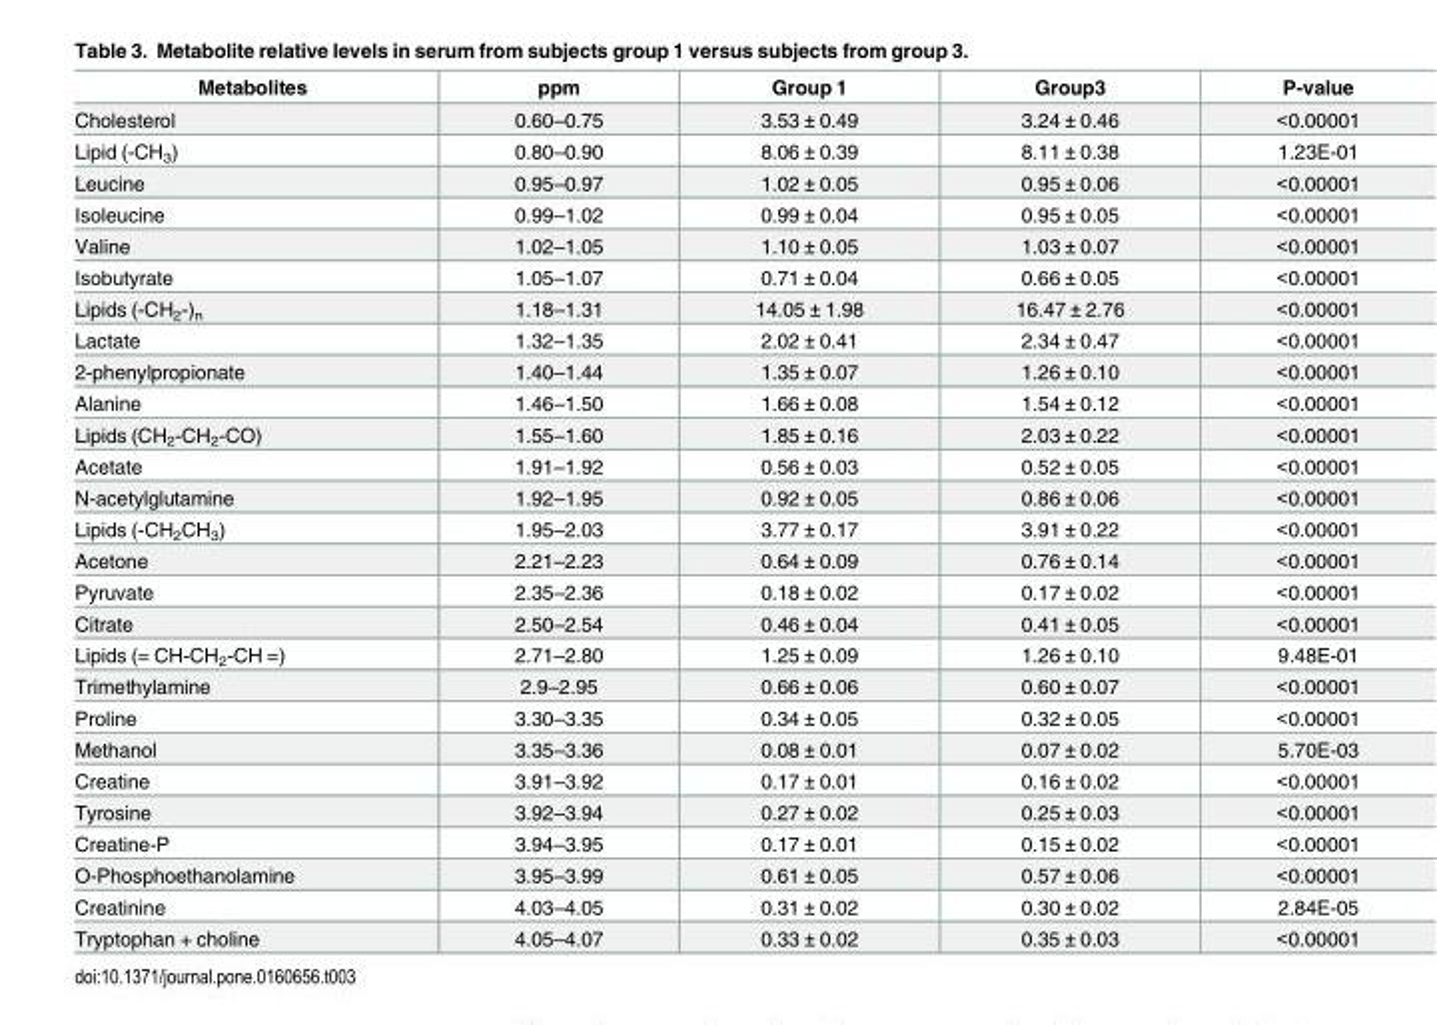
<table><thead><tr><td>Metabolites</td><td>ppm</td><td>Group 1</td><td>Group3</td><td>P-value</td></tr></thead><tbody><tr><td>Cholesterol</td><td>0.60–0.75</td><td>3.53 ± 0.49</td><td>3.24 ± 0.46</td><td>&lt;0.00001</td></tr><tr><td>Lipid (-CH<sub>3</sub>)</td><td>0.80–0.90</td><td>8.06 ± 0.39</td><td>8.11 ± 0.38</td><td>1.23E-01</td></tr><tr><td>Leucine</td><td>0.95–0.97</td><td>1.02 ± 0.05</td><td>0.95 ± 0.06</td><td>&lt;0.00001</td></tr><tr><td>Isoleucine</td><td>0.99–1.02</td><td>0.99 ± 0.04</td><td>0.95 ± 0.05</td><td>&lt;0.00001</td></tr><tr><td>Valine</td><td>1.02–1.05</td><td>1.10 ± 0.05</td><td>1.03 ± 0.07</td><td>&lt;0.00001</td></tr><tr><td>Isobutyrate</td><td>1.05–1.07</td><td>0.71 ± 0.04</td><td>0.66 ± 0.05</td><td>&lt;0.00001</td></tr><tr><td>Lipids (-CH<sub>2</sub>-)<sub>n</sub></td><td>1.18–1.31</td><td>14.05 ± 1.98</td><td>16.47 ± 2.76</td><td>&lt;0.00001</td></tr><tr><td>Lactate</td><td>1.32–1.35</td><td>2.02 ± 0.41</td><td>2.34 ± 0.47</td><td>&lt;0.00001</td></tr><tr><td>2-phenylpropionate</td><td>1.40–1.44</td><td>1.35 ± 0.07</td><td>1.26 ± 0.10</td><td>&lt;0.00001</td></tr><tr><td>Alanine</td><td>1.46–1.50</td><td>1.66 ± 0.08</td><td>1.54 ± 0.12</td><td>&lt;0.00001</td></tr><tr><td>Lipids (CH<sub>2</sub>-CH<sub>2</sub>-CO)</td><td>1.55–1.60</td><td>1.85 ± 0.16</td><td>2.03 ± 0.22</td><td>&lt;0.00001</td></tr><tr><td>Acetate</td><td>1.91–1.92</td><td>0.56 ± 0.03</td><td>0.52 ± 0.05</td><td>&lt;0.00001</td></tr><tr><td>N-acetylglutamine</td><td>1.92–1.95</td><td>0.92 ± 0.05</td><td>0.86 ± 0.06</td><td>&lt;0.00001</td></tr><tr><td>Lipids (-CH<sub>2</sub>CH<sub>3</sub>)</td><td>1.95–2.03</td><td>3.77 ± 0.17</td><td>3.91 ± 0.22</td><td>&lt;0.00001</td></tr><tr><td>Acetone</td><td>2.21–2.23</td><td>0.64 ± 0.09</td><td>0.76 ± 0.14</td><td>&lt;0.00001</td></tr><tr><td>Pyruvate</td><td>2.35–2.36</td><td>0.18 ± 0.02</td><td>0.17 ± 0.02</td><td>&lt;0.00001</td></tr><tr><td>Citrate</td><td>2.50–2.54</td><td>0.46 ± 0.04</td><td>0.41 ± 0.05</td><td>&lt;0.00001</td></tr><tr><td>Lipids (= CH-CH<sub>2</sub>-CH =)</td><td>2.71–2.80</td><td>1.25 ± 0.09</td><td>1.26 ± 0.10</td><td>9.48E-01</td></tr><tr><td>Trimethylamine</td><td>2.9–2.95</td><td>0.66 ± 0.06</td><td>0.60 ± 0.07</td><td>&lt;0.00001</td></tr><tr><td>Proline</td><td>3.30–3.35</td><td>0.34 ± 0.05</td><td>0.32 ± 0.05</td><td>&lt;0.00001</td></tr><tr><td>Methanol</td><td>3.35–3.36</td><td>0.08 ± 0.01</td><td>0.07 ± 0.02</td><td>5.70E-03</td></tr><tr><td>Creatine</td><td>3.91–3.92</td><td>0.17 ± 0.01</td><td>0.16 ± 0.02</td><td>&lt;0.00001</td></tr><tr><td>Tyrosine</td><td>3.92–3.94</td><td>0.27 ± 0.02</td><td>0.25 ± 0.03</td><td>&lt;0.00001</td></tr><tr><td>Creatine-P</td><td>3.94–3.95</td><td>0.17 ± 0.01</td><td>0.15 ± 0.02</td><td>&lt;0.00001</td></tr><tr><td>O-Phosphoethanolamine</td><td>3.95–3.99</td><td>0.61 ± 0.05</td><td>0.57 ± 0.06</td><td>&lt;0.00001</td></tr><tr><td>Creatinine</td><td>4.03–4.05</td><td>0.31 ± 0.02</td><td>0.30 ± 0.02</td><td>2.84E-05</td></tr><tr><td>Tryptophan + choline</td><td>4.05–4.07</td><td>0.33 ± 0.02</td><td>0.35 ± 0.03</td><td>&lt;0.00001</td></tr></tbody></table>